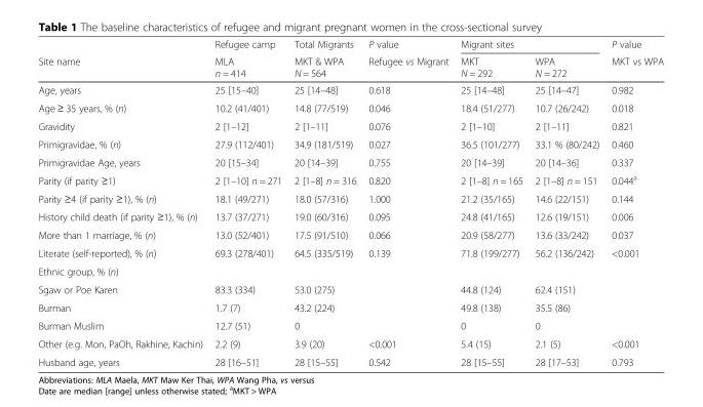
<table><thead><tr><td rowspan="2">Site name</td><td rowspan="2">Refugee camp MLA n = 414</td><td rowspan="2">Total Migrants MKT &amp; WPA N = 564</td><td rowspan="2">P value Refugee vs Migrant</td><td colspan="2">Migrant sites</td><td rowspan="2">P value MKT vs WPA</td></tr><tr><td>MKT N = 292</td><td>WPA N = 272</td></tr></thead><tbody><tr><td>Age, years</td><td>25 [15–40]</td><td>25 [14–48]</td><td>0.618</td><td>25 [14–48]</td><td>25 [14–47]</td><td>0.982</td></tr><tr><td>Age ≥ 35 years, % (n)</td><td>10.2 (41/401)</td><td>14.8 (77/519)</td><td>0.046</td><td>18.4 (51/277)</td><td>10.7 (26/242)</td><td>0.018</td></tr><tr><td>Gravidity</td><td>2 [1–12]</td><td>2 [1–11]</td><td>0.076</td><td>2 [1–10]</td><td>2 [1–11]</td><td>0.821</td></tr><tr><td>Primigravidae, % (n)</td><td>27.9 (112/401)</td><td>34.9 (181/519)</td><td>0.027</td><td>36.5 (101/277)</td><td>33.1 % (80/242)</td><td>0.460</td></tr><tr><td>Primigravidae Age, years</td><td>20 [15–34]</td><td>20 [14–39]</td><td>0.755</td><td>20 [14–39]</td><td>20 [14–36]</td><td>0.337</td></tr><tr><td>Parity (if parity ≥1)</td><td>2 [1–10] n = 271</td><td>2 [1–8] n = 316</td><td>0.820</td><td>2 [1–8] n = 165</td><td>2 [1–8] n = 151</td><td>0.044<sup>a</sup></td></tr><tr><td>Parity ≥4 (if parity ≥1), % (n)</td><td>18.1 (49/271)</td><td>18.0 (57/316)</td><td>1.000</td><td>21.2 (35/165)</td><td>14.6 (22/151)</td><td>0.144</td></tr><tr><td>History child death (if parity ≥1), % (n)</td><td>13.7 (37/271)</td><td>19.0 (60/316)</td><td>0.095</td><td>24.8 (41/165)</td><td>12.6 (19/151)</td><td>0.006</td></tr><tr><td>More than 1 marriage, % (n)</td><td>13.0 (52/401)</td><td>17.5 (91/510)</td><td>0.066</td><td>20.9 (58/277)</td><td>13.6 (33/242)</td><td>0.037</td></tr><tr><td>Literate (self-reported), % (n)</td><td>69.3 (278/401)</td><td>64.5 (335/519)</td><td>0.139</td><td>71.8 (199/277)</td><td>56.2 (136/242)</td><td>&lt;0.001</td></tr><tr><td colspan="7">Ethnic group, % (n)</td></tr><tr><td>Sgaw or Poe Karen</td><td>83.3 (334)</td><td>53.0 (275)</td><td></td><td>44.8 (124)</td><td>62.4 (151)</td><td></td></tr><tr><td>Burman</td><td>1.7 (7)</td><td>43.2 (224)</td><td></td><td>49.8 (138)</td><td>35.5 (86)</td><td></td></tr><tr><td>Burman Muslim</td><td>12.7 (51)</td><td>0</td><td></td><td>0</td><td>0</td><td></td></tr><tr><td>Other (e.g. Mon, PaOh, Rakhine, Kachin)</td><td>2.2 (9)</td><td>3.9 (20)</td><td>&lt;0.001</td><td>5.4 (15)</td><td>2.1 (5)</td><td>&lt;0.001</td></tr><tr><td>Husband age, years</td><td>28 [16–51]</td><td>28 [15–55]</td><td>0.542</td><td>28 [15–55]</td><td>28 [17–53]</td><td>0.793</td></tr></tbody></table>